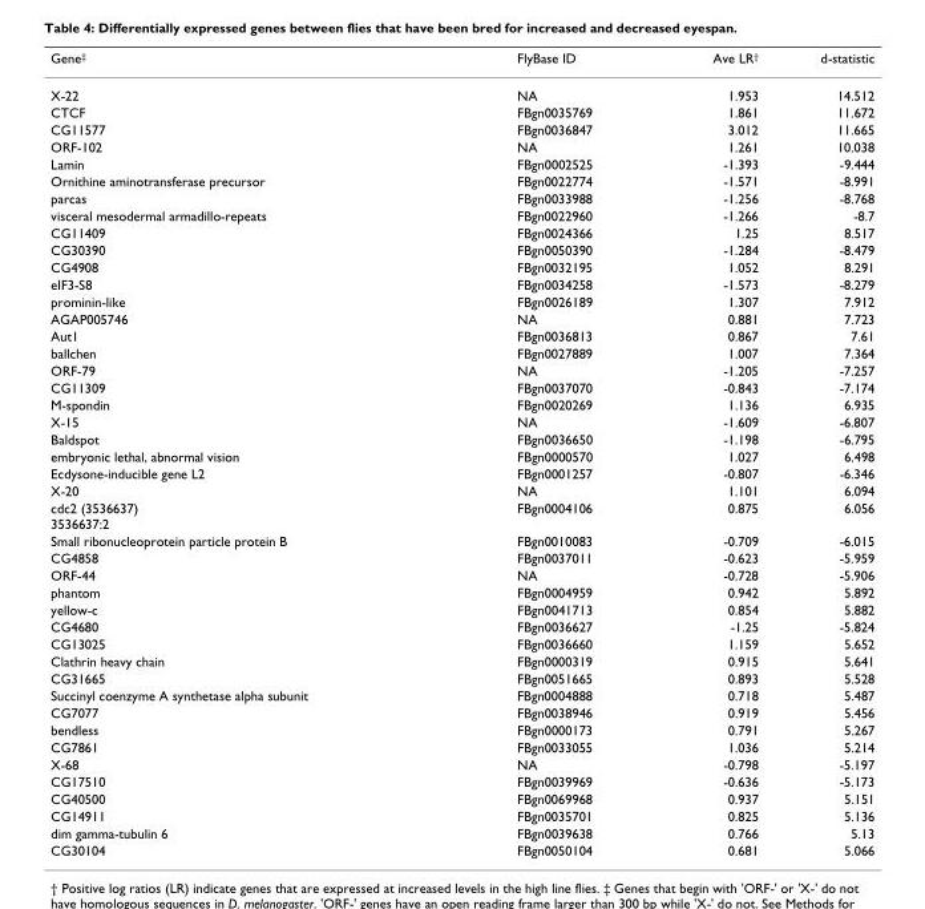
<table><thead><tr><td>Gene<sup>‡</sup></td><td>FlyBase ID</td><td>Ave LR<sup>†</sup></td><td>d-statistic</td></tr></thead><tbody><tr><td>X-22</td><td>NA</td><td>1.953</td><td>14.512</td></tr><tr><td>CTCF</td><td>FBgn0035769</td><td>1.861</td><td>11.672</td></tr><tr><td>CG11577</td><td>FBgn0036847</td><td>3.012</td><td>11.665</td></tr><tr><td>ORF-102</td><td>NA</td><td>1.261</td><td>10.038</td></tr><tr><td>Lamin</td><td>FBgn0002525</td><td>-1.393</td><td>-9.444</td></tr><tr><td>Ornithine aminotransferase precursor</td><td>FBgn0022774</td><td>-1.571</td><td>-8.991</td></tr><tr><td>parcas</td><td>FBgn0033988</td><td>-1.256</td><td>-8.768</td></tr><tr><td>visceral mesodermal armadillo-repeats</td><td>FBgn0022960</td><td>-1.266</td><td>-8.7</td></tr><tr><td>CG11409</td><td>FBgn0024366</td><td>1.25</td><td>8.517</td></tr><tr><td>CG30390</td><td>FBgn0050390</td><td>-1.284</td><td>-8.479</td></tr><tr><td>CG4908</td><td>FBgn0032195</td><td>1.052</td><td>8.291</td></tr><tr><td>eIF3-S8</td><td>FBgn0034258</td><td>-1.573</td><td>-8.279</td></tr><tr><td>prominin-like</td><td>FBgn0026189</td><td>1.307</td><td>7.912</td></tr><tr><td>AGAP005746</td><td>NA</td><td>0.881</td><td>7.723</td></tr><tr><td>Aut1</td><td>FBgn0036813</td><td>0.867</td><td>7.61</td></tr><tr><td>ballchen</td><td>FBgn0027889</td><td>1.007</td><td>7.364</td></tr><tr><td>ORF-79</td><td>NA</td><td>-1.205</td><td>-7.257</td></tr><tr><td>CG11309</td><td>FBgn0037070</td><td>-0.843</td><td>-7.174</td></tr><tr><td>M-spondin</td><td>FBgn0020269</td><td>1.136</td><td>6.935</td></tr><tr><td>X-15</td><td>NA</td><td>-1.609</td><td>-6.807</td></tr><tr><td>Baldspot</td><td>FBgn0036650</td><td>-1.198</td><td>-6.795</td></tr><tr><td>embryonic lethal, abnormal vision</td><td>FBgn0000570</td><td>1.027</td><td>6.498</td></tr><tr><td>Ecdysone-inducible gene L2</td><td>FBgn0001257</td><td>-0.807</td><td>-6.346</td></tr><tr><td>X-20</td><td>NA</td><td>1.101</td><td>6.094</td></tr><tr><td>cdc2 (3536637) 3536637:2</td><td>FBgn0004106</td><td>0.875</td><td>6.056</td></tr><tr><td>Small ribonucleoprotein particle protein B</td><td>FBgn0010083</td><td>-0.709</td><td>-6.015</td></tr><tr><td>CG4858</td><td>FBgn0037011</td><td>-0.623</td><td>-5.959</td></tr><tr><td>ORF-44</td><td>NA</td><td>-0.728</td><td>-5.906</td></tr><tr><td>phantom</td><td>FBgn0004959</td><td>0.942</td><td>5.892</td></tr><tr><td>yellow-c</td><td>FBgn0041713</td><td>0.854</td><td>5.882</td></tr><tr><td>CG4680</td><td>FBgn0036627</td><td>-1.25</td><td>-5.824</td></tr><tr><td>CG13025</td><td>FBgn0036660</td><td>1.159</td><td>5.652</td></tr><tr><td>Clathrin heavy chain</td><td>FBgn0000319</td><td>0.915</td><td>5.641</td></tr><tr><td>CG31665</td><td>FBgn0051665</td><td>0.893</td><td>5.528</td></tr><tr><td>Succinyl coenzyme A synthetase alpha subunit</td><td>FBgn0004888</td><td>0.718</td><td>5.487</td></tr><tr><td>CG7077</td><td>FBgn0038946</td><td>0.919</td><td>5.456</td></tr><tr><td>bendless</td><td>FBgn0000173</td><td>0.791</td><td>5.267</td></tr><tr><td>CG7861</td><td>FBgn0033055</td><td>1.036</td><td>5.214</td></tr><tr><td>X-68</td><td>NA</td><td>-0.798</td><td>-5.197</td></tr><tr><td>CG17510</td><td>FBgn0039969</td><td>-0.636</td><td>-5.173</td></tr><tr><td>CG40500</td><td>FBgn0069968</td><td>0.937</td><td>5.151</td></tr><tr><td>CG14911</td><td>FBgn0035701</td><td>0.825</td><td>5.136</td></tr><tr><td>dim gamma-tubulin 6</td><td>FBgn0039638</td><td>0.766</td><td>5.13</td></tr><tr><td>CG30104</td><td>FBgn0050104</td><td>0.681</td><td>5.066</td></tr></tbody></table>